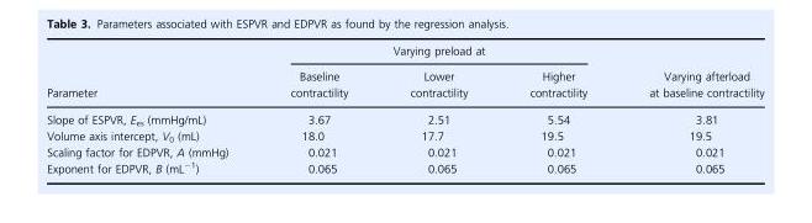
<table><thead><tr><td rowspan="2">Parameter</td><td colspan="3">Varying preload at</td><td rowspan="2">Varying afterload at baseline contractility</td></tr><tr><td>Baseline contractility</td><td>Lower contractility</td><td>Higher contractility</td></tr></thead><tbody><tr><td>Slope of ESPVR, E<sub>es</sub> (mmHg/mL)</td><td>3.67</td><td>2.51</td><td>5.54</td><td>3.81</td></tr><tr><td>Volume axis intercept, V<sub>0</sub> (mL)</td><td>18.0</td><td>17.7</td><td>19.5</td><td>19.5</td></tr><tr><td>Scaling factor for EDPVR, A (mmHg)</td><td>0.021</td><td>0.021</td><td>0.021</td><td>0.021</td></tr><tr><td>Exponent for EDPVR, B (mL<sup>−1</sup>)</td><td>0.065</td><td>0.065</td><td>0.065</td><td>0.065</td></tr></tbody></table>